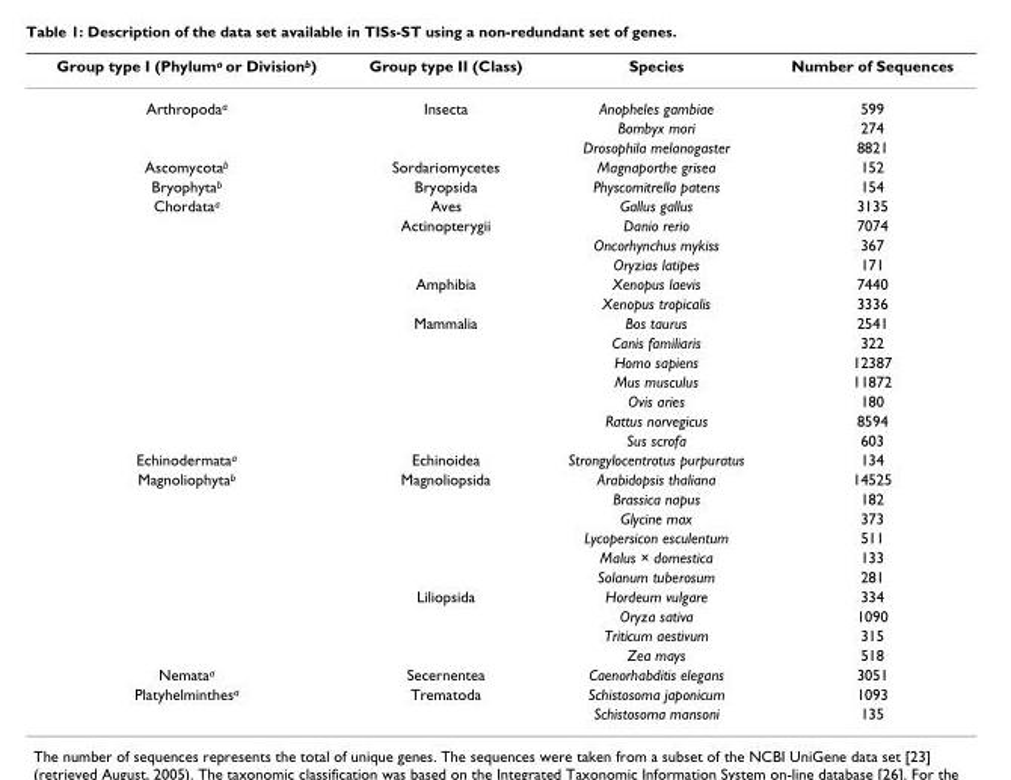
<table><thead><tr><td>Group type I (Phyluma or Divisionb)</td><td>Group type II (Class)</td><td>Species</td><td>Number of Sequences</td></tr></thead><tbody><tr><td rowspan="3">Arthropoda<sup>a</sup></td><td>Insecta</td><td>Anopheles gambiae</td><td>599</td></tr><tr><td></td><td>Bombyx mori</td><td>274</td></tr><tr><td></td><td>Drosophila melanogaster</td><td>8821</td></tr><tr><td>Ascomycota<sup>b</sup></td><td>Sordariomycetes</td><td>Magnaporthe grisea</td><td>152</td></tr><tr><td>Bryophyta<sup>b</sup></td><td>Bryopsida</td><td>Physcomitrella patens</td><td>154</td></tr><tr><td rowspan="13">Chordata<sup>a</sup></td><td>Aves</td><td>Gallus gallus</td><td>3135</td></tr><tr><td>Actinopterygii</td><td>Danio rerio</td><td>7074</td></tr><tr><td></td><td>Oncorhynchus mykiss</td><td>367</td></tr><tr><td></td><td>Oryzias latipes</td><td>171</td></tr><tr><td>Amphibia</td><td>Xenopus laevis</td><td>7440</td></tr><tr><td></td><td>Xenopus tropicalis</td><td>3336</td></tr><tr><td>Mammalia</td><td>Bos taurus</td><td>2541</td></tr><tr><td></td><td>Canis familiaris</td><td>322</td></tr><tr><td></td><td>Homo sapiens</td><td>12387</td></tr><tr><td></td><td>Mus musculus</td><td>11872</td></tr><tr><td></td><td>Ovis aries</td><td>180</td></tr><tr><td></td><td>Rattus norvegicus</td><td>8594</td></tr><tr><td></td><td>Sus scrofa</td><td>603</td></tr><tr><td>Echinodermata<sup>a</sup></td><td>Echinoidea</td><td>Strongylocentrotus purpuratus</td><td>134</td></tr><tr><td rowspan="10">Magnoliophyta<sup>b</sup></td><td>Magnoliopsida</td><td>Arabidopsis thaliana</td><td>14525</td></tr><tr><td></td><td>Brassica napus</td><td>182</td></tr><tr><td></td><td>Glycine max</td><td>373</td></tr><tr><td></td><td>Lycopersicon esculentum</td><td>511</td></tr><tr><td></td><td>Malus × domestica</td><td>133</td></tr><tr><td></td><td>Solanum tuberosum</td><td>281</td></tr><tr><td>Liliopsida</td><td>Hordeum vulgare</td><td>334</td></tr><tr><td></td><td>Oryza sativa</td><td>1090</td></tr><tr><td></td><td>Triticum aestivum</td><td>315</td></tr><tr><td></td><td>Zea mays</td><td>518</td></tr><tr><td>Nemata<sup>a</sup></td><td>Secernentea</td><td>Caenorhabditis elegans</td><td>3051</td></tr><tr><td rowspan="2">Platyhelminthes<sup>a</sup></td><td>Trematoda</td><td>Schistosoma japonicum</td><td>1093</td></tr><tr><td></td><td>Schistosoma mansoni</td><td>135</td></tr></tbody></table>